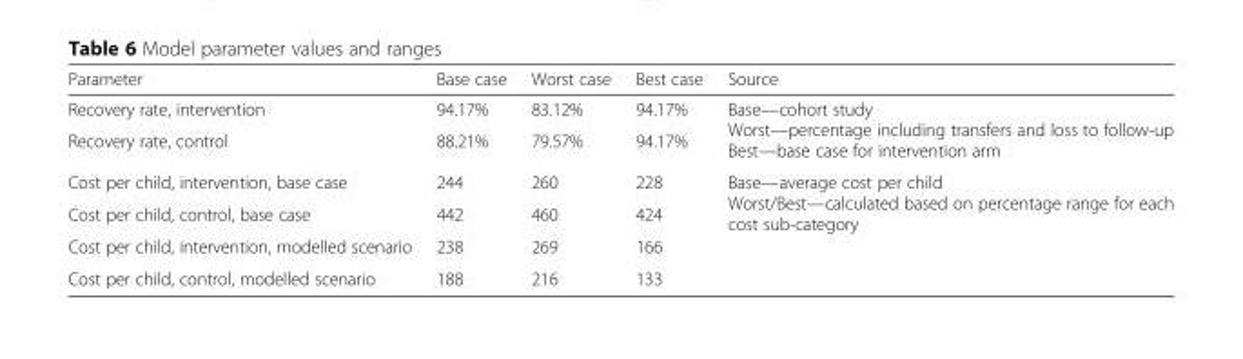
<table><thead><tr><td>Parameter</td><td>Base case</td><td>Worst case</td><td>Best case</td><td>Source</td></tr></thead><tbody><tr><td>Recovery rate, intervention</td><td>94.17%</td><td>83.12%</td><td>94.17%</td><td rowspan="2">Base—cohort study Worst—percentage including transfers and loss to follow-up Best—base case for intervention arm</td></tr><tr><td>Recovery rate, control</td><td>88.21%</td><td>79.57%</td><td>94.17%</td></tr><tr><td>Cost per child, intervention, base case</td><td>244</td><td>260</td><td>228</td><td rowspan="4">Base—average cost per child Worst/Best—calculated based on percentage range for each cost sub-category</td></tr><tr><td>Cost per child, control, base case</td><td>442</td><td>460</td><td>424</td></tr><tr><td>Cost per child, intervention, modelled scenario</td><td>238</td><td>269</td><td>166</td></tr><tr><td>Cost per child, control, modelled scenario</td><td>188</td><td>216</td><td>133</td></tr></tbody></table>